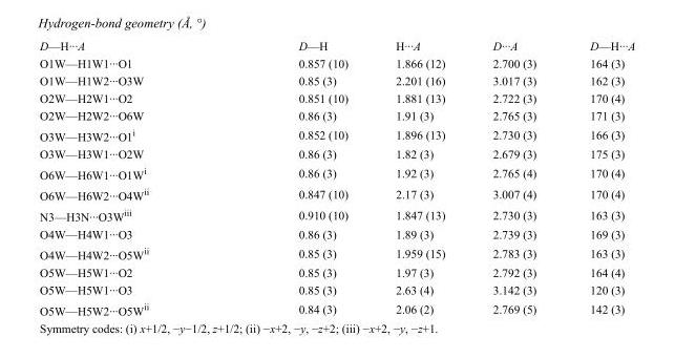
<table><tbody><tr><td>D—H···A</td><td>D—H</td><td>H···A</td><td>D···A</td><td>D—H···A</td></tr><tr><td>O1W—H1W1···O1</td><td>0.857 (10)</td><td>1.866 (12)</td><td>2.700 (3)</td><td>164 (3)</td></tr><tr><td>O1W—H1W2···O3W</td><td>0.85 (3)</td><td>2.201 (16)</td><td>3.017 (3)</td><td>162 (3)</td></tr><tr><td>O2W—H2W1···O2</td><td>0.851 (10)</td><td>1.881 (13)</td><td>2.722 (3)</td><td>170 (4)</td></tr><tr><td>O2W—H2W2···O6W</td><td>0.86 (3)</td><td>1.91 (3)</td><td>2.765 (3)</td><td>171 (3)</td></tr><tr><td>O3W—H3W2···O1<sup>i</sup></td><td>0.852 (10)</td><td>1.896 (13)</td><td>2.730 (3)</td><td>166 (3)</td></tr><tr><td>O3W—H3W1···O2W</td><td>0.86 (3)</td><td>1.82 (3)</td><td>2.679 (3)</td><td>175 (3)</td></tr><tr><td>O6W—H6W1···O1W<sup>i</sup></td><td>0.86 (3)</td><td>1.92 (3)</td><td>2.765 (4)</td><td>170 (4)</td></tr><tr><td>O6W—H6W2···O4W<sup>ii</sup></td><td>0.847 (10)</td><td>2.17 (3)</td><td>3.007 (4)</td><td>170 (4)</td></tr><tr><td>N3—H3N···O3W<sup>iii</sup></td><td>0.910 (10)</td><td>1.847 (13)</td><td>2.730 (3)</td><td>163 (3)</td></tr><tr><td>O4W—H4W1···O3</td><td>0.86 (3)</td><td>1.89 (3)</td><td>2.739 (3)</td><td>169 (3)</td></tr><tr><td>O4W—H4W2···O5W<sup>ii</sup></td><td>0.85 (3)</td><td>1.959 (15)</td><td>2.783 (3)</td><td>163 (3)</td></tr><tr><td>O5W—H5W1···O2</td><td>0.85 (3)</td><td>1.97 (3)</td><td>2.792 (3)</td><td>164 (4)</td></tr><tr><td>O5W—H5W1···O3</td><td>0.85 (3)</td><td>2.63 (4)</td><td>3.142 (3)</td><td>120 (3)</td></tr><tr><td>O5W—H5W2···O5W<sup>ii</sup></td><td>0.84 (3)</td><td>2.06 (2)</td><td>2.769 (5)</td><td>142 (3)</td></tr></tbody></table>